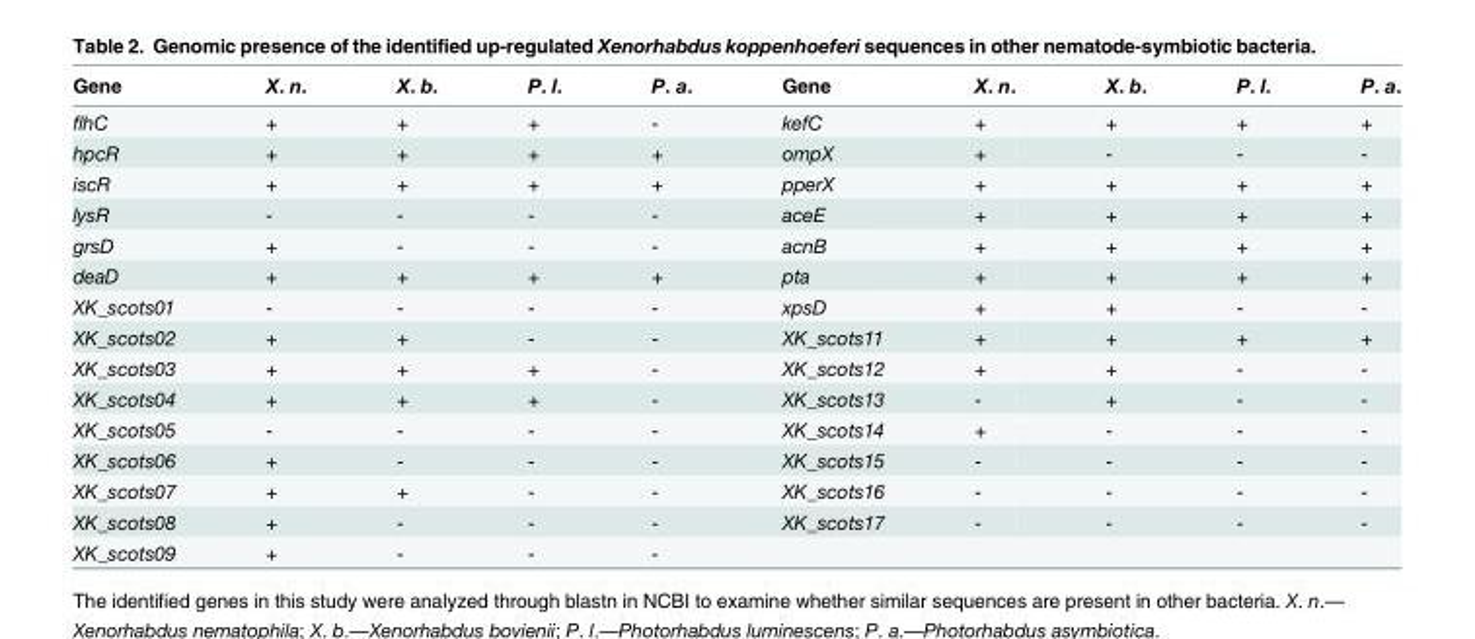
<table><thead><tr><td>Gene</td><td>X. n.</td><td>X. b.</td><td>P. l.</td><td>P. a.</td><td>Gene</td><td>X. n.</td><td>X. b.</td><td>P. l.</td><td>P. a.</td></tr></thead><tbody><tr><td>flhC</td><td>+</td><td>+</td><td>+</td><td>-</td><td>kefC</td><td>+</td><td>+</td><td>+</td><td>+</td></tr><tr><td>hpcR</td><td>+</td><td>+</td><td>+</td><td>+</td><td>ompX</td><td>+</td><td>-</td><td>-</td><td>-</td></tr><tr><td>iscR</td><td>+</td><td>+</td><td>+</td><td>+</td><td>pperX</td><td>+</td><td>+</td><td>+</td><td>+</td></tr><tr><td>lysR</td><td>-</td><td>-</td><td>-</td><td>-</td><td>aceE</td><td>+</td><td>+</td><td>+</td><td>+</td></tr><tr><td>grsD</td><td>+</td><td>-</td><td>-</td><td>-</td><td>acnB</td><td>+</td><td>+</td><td>+</td><td>+</td></tr><tr><td>deaD</td><td>+</td><td>+</td><td>+</td><td>+</td><td>pta</td><td>+</td><td>+</td><td>+</td><td>+</td></tr><tr><td>XK_scots01</td><td>-</td><td>-</td><td>-</td><td>-</td><td>xpsD</td><td>+</td><td>+</td><td>-</td><td>-</td></tr><tr><td>XK_scots02</td><td>+</td><td>+</td><td>-</td><td>-</td><td>XK_scots11</td><td>+</td><td>+</td><td>+</td><td>+</td></tr><tr><td>XK_scots03</td><td>+</td><td>+</td><td>+</td><td>-</td><td>XK_scots12</td><td>+</td><td>+</td><td>-</td><td>-</td></tr><tr><td>XK_scots04</td><td>+</td><td>+</td><td>+</td><td>-</td><td>XK_scots13</td><td>-</td><td>+</td><td>-</td><td>-</td></tr><tr><td>XK_scots05</td><td>-</td><td>-</td><td>-</td><td>-</td><td>XK_scots14</td><td>+</td><td>-</td><td>-</td><td>-</td></tr><tr><td>XK_scots06</td><td>+</td><td>-</td><td>-</td><td>-</td><td>XK_scots15</td><td>-</td><td>-</td><td>-</td><td>-</td></tr><tr><td>XK_scots07</td><td>+</td><td>+</td><td>-</td><td>-</td><td>XK_scots16</td><td>-</td><td>-</td><td>-</td><td>-</td></tr><tr><td>XK_scots08</td><td>+</td><td>-</td><td>-</td><td>-</td><td>XK_scots17</td><td>-</td><td>-</td><td>-</td><td>-</td></tr><tr><td>XK_scots09</td><td>+</td><td>-</td><td>-</td><td>-</td><td></td><td></td><td></td><td></td><td></td></tr></tbody></table>